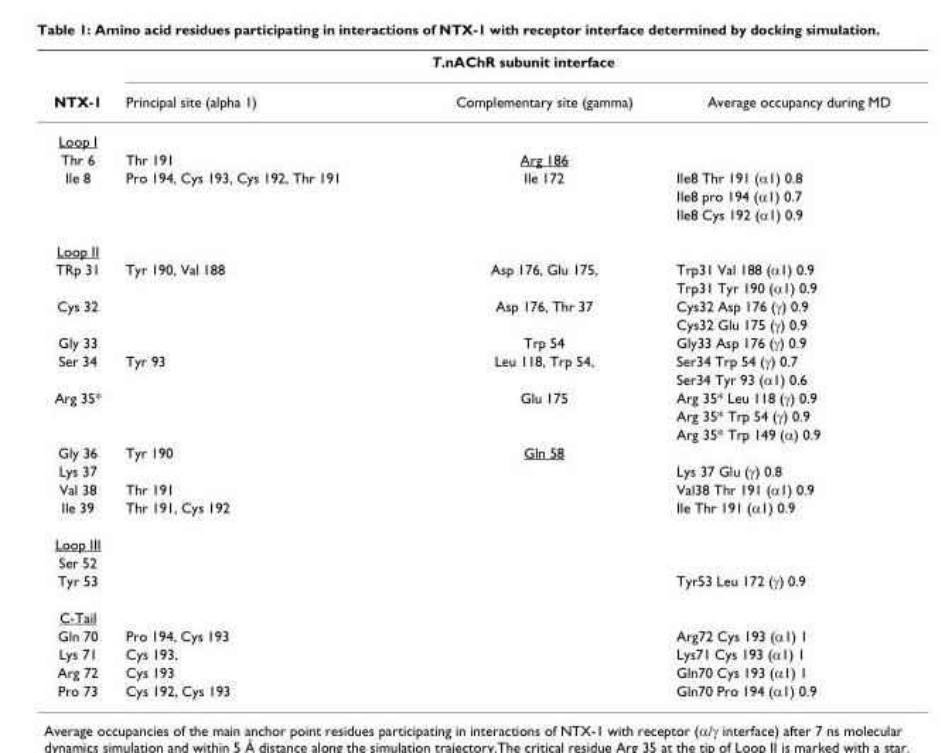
<table><thead><tr><td rowspan="2">NTX-1</td><td colspan="3">T.nAChR subunit interface</td></tr><tr><td>Principal site (alpha 1)</td><td>Complementary site (gamma)</td><td>Average occupancy during MD</td></tr></thead><tbody><tr><td colspan="4">Loop I</td></tr><tr><td>Thr 6</td><td>Thr 191</td><td>Arg 186</td><td></td></tr><tr><td rowspan="3">Ile 8</td><td>Pro 194, Cys 193, Cys 192, Thr 191</td><td>Ile 172</td><td>Ile8 Thr 191 (α1) 0.8</td></tr><tr><td></td><td></td><td>Ile8 pro 194 (α1) 0.7</td></tr><tr><td></td><td></td><td>Ile8 Cys 192 (α1) 0.9</td></tr><tr><td colspan="4">Loop II</td></tr><tr><td rowspan="2">TRp 31</td><td>Tyr 190, Val 188</td><td>Asp 176, Glu 175,</td><td>Trp31 Val 188 (α1) 0.9</td></tr><tr><td></td><td></td><td>Trp31 Tyr 190 (α1) 0.9</td></tr><tr><td rowspan="2">Cys 32</td><td></td><td>Asp 176, Thr 37</td><td>Cys32 Asp 176 (γ) 0.9</td></tr><tr><td></td><td></td><td>Cys32 Glu 175 (γ) 0.9</td></tr><tr><td>Gly 33</td><td></td><td>Trp 54</td><td>Gly33 Asp 176 (γ) 0.9</td></tr><tr><td rowspan="2">Ser 34</td><td>Tyr 93</td><td>Leu 118, Trp 54,</td><td>Ser34 Trp 54 (γ) 0.7</td></tr><tr><td></td><td></td><td>Ser34 Tyr 93 (α1) 0.6</td></tr><tr><td rowspan="3">Arg 35*</td><td></td><td>Glu 175</td><td>Arg 35* Leu 118 (γ) 0.9</td></tr><tr><td></td><td></td><td>Arg 35* Trp 54 (γ) 0.9</td></tr><tr><td></td><td></td><td>Arg 35* Trp 149 (α) 0.9</td></tr><tr><td>Gly 36</td><td>Tyr 190</td><td>Gln 58</td><td></td></tr><tr><td>Lys 37</td><td></td><td></td><td>Lys 37 Glu (γ) 0.8</td></tr><tr><td>Val 38</td><td>Thr 191</td><td></td><td>Val38 Thr 191 (α1) 0.9</td></tr><tr><td>Ile 39</td><td>Thr 191, Cys 192</td><td></td><td>Ile Thr 191 (α1) 0.9</td></tr><tr><td colspan="4">Loop III</td></tr><tr><td colspan="4">Ser 52</td></tr><tr><td>Tyr 53</td><td></td><td></td><td>Tyr53 Leu 172 (γ) 0.9</td></tr><tr><td colspan="4">C-Tail</td></tr><tr><td>Gln 70</td><td>Pro 194, Cys 193</td><td></td><td>Arg72 Cys 193 (α1) 1</td></tr><tr><td>Lys 71</td><td>Cys 193,</td><td></td><td>Lys71 Cys 193 (α1) 1</td></tr><tr><td>Arg 72</td><td>Cys 193</td><td></td><td>Gln70 Cys 193 (α1) 1</td></tr><tr><td>Pro 73</td><td>Cys 192, Cys 193</td><td></td><td>Gln70 Pro 194 (α1) 0.9</td></tr></tbody></table>